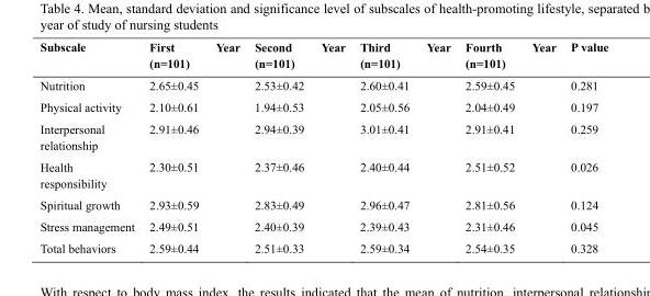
<table><thead><tr><td>Subscale</td><td>First Year (n=101)</td><td>Second Year (n=101)</td><td>Third Year (n=101)</td><td>Fourth Year (n=101)</td><td>P value</td></tr></thead><tbody><tr><td>Nutrition</td><td>2.65±0.45</td><td>2.53±0.42</td><td>2.60±0.41</td><td>2.59±0.45</td><td>0.281</td></tr><tr><td>Physical activity</td><td>2.10±0.61</td><td>1.94±0.53</td><td>2.05±0.56</td><td>2.04±0.49</td><td>0.197</td></tr><tr><td>Interpersonal relationship</td><td>2.91±0.46</td><td>2.94±0.39</td><td>3.01±0.41</td><td>2.91±0.41</td><td>0.259</td></tr><tr><td>Health responsibility</td><td>2.30±0.51</td><td>2.37±0.46</td><td>2.40±0.44</td><td>2.51±0.52</td><td>0.026</td></tr><tr><td>Spiritual growth</td><td>2.93±0.59</td><td>2.83±0.49</td><td>2.96±0.47</td><td>2.81±0.56</td><td>0.124</td></tr><tr><td>Stress management</td><td>2.49±0.51</td><td>2.40±0.39</td><td>2.39±0.43</td><td>2.31±0.46</td><td>0.045</td></tr><tr><td>Total behaviors</td><td>2.59±0.44</td><td>2.51±0.33</td><td>2.59±0.34</td><td>2.54±0.35</td><td>0.328</td></tr></tbody></table>